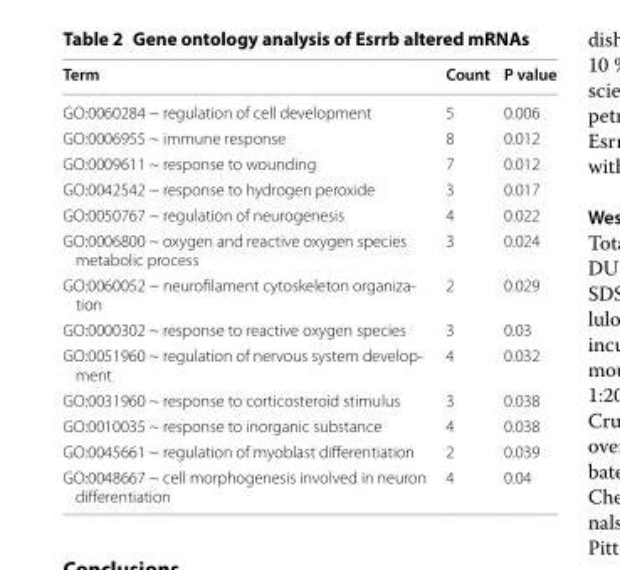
<table><thead><tr><td>Term</td><td>Count</td><td>P value</td></tr></thead><tbody><tr><td>GO:0060284 ~ regulation of cell development</td><td>5</td><td>0.006</td></tr><tr><td>GO:0006955 ~ immune response</td><td>8</td><td>0.012</td></tr><tr><td>GO:0009611 ~ response to wounding</td><td>7</td><td>0.012</td></tr><tr><td>GO:0042542 ~ response to hydrogen peroxide</td><td>3</td><td>0.017</td></tr><tr><td>GO:0050767 ~ regulation of neurogenesis</td><td>4</td><td>0.022</td></tr><tr><td>GO:0006800 ~ oxygen and reactive oxygen species metabolic process</td><td>3</td><td>0.024</td></tr><tr><td>GO:0060052 ~ neurofilament cytoskeleton organiza- tion</td><td>2</td><td>0.029</td></tr><tr><td>GO:0000302 ~ response to reactive oxygen species</td><td>3</td><td>0.03</td></tr><tr><td>GO:0051960 ~ regulation of nervous system develop- ment</td><td>4</td><td>0.032</td></tr><tr><td>GO:0031960 ~ response to corticosteroid stimulus</td><td>3</td><td>0.038</td></tr><tr><td>GO:0010035 ~ response to inorganic substance</td><td>4</td><td>0.038</td></tr><tr><td>GO:0045661 ~ regulation of myoblast differentiation</td><td>2</td><td>0.039</td></tr><tr><td>GO:0048667 ~ cell morphogenesis involved in neuron differentiation</td><td>4</td><td>0.04</td></tr></tbody></table>